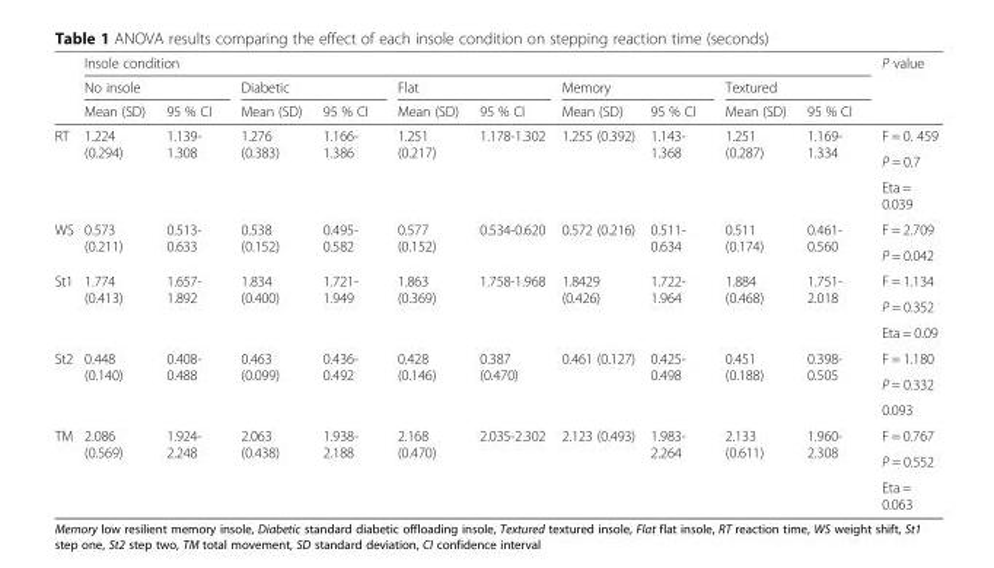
<table><thead><tr><td rowspan="3"></td><td colspan="10">Insole condition</td><td rowspan="3">P value</td></tr><tr><td colspan="2">No insole</td><td colspan="2">Diabetic</td><td colspan="2">Flat</td><td colspan="2">Memory</td><td colspan="2">Textured</td></tr><tr><td>Mean (SD)</td><td>95 % CI</td><td>Mean (SD)</td><td>95 % CI</td><td>Mean (SD)</td><td>95 % CI</td><td>Mean (SD)</td><td>95 % CI</td><td>Mean (SD)</td><td>95 % CI</td></tr></thead><tbody><tr><td rowspan="3">RT</td><td rowspan="3">1.224 (0.294)</td><td rowspan="3">1.139- 1.308</td><td rowspan="3">1.276 (0.383)</td><td rowspan="3">1.166- 1.386</td><td rowspan="3">1.251 (0.217)</td><td rowspan="3">1.178-1.302</td><td rowspan="3">1.255 (0.392)</td><td rowspan="3">1.143- 1.368</td><td rowspan="3">1.251 (0.287)</td><td rowspan="3">1.169- 1.334</td><td>F = 0. 459</td></tr><tr><td>P = 0.7</td></tr><tr><td>Eta = 0.039</td></tr><tr><td rowspan="2">WS</td><td rowspan="2">0.573 (0.211)</td><td rowspan="2">0.513- 0.633</td><td rowspan="2">0.538 (0.152)</td><td rowspan="2">0.495- 0.582</td><td rowspan="2">0.577 (0.152)</td><td rowspan="2">0.534-0.620</td><td rowspan="2">0.572 (0.216)</td><td rowspan="2">0.511- 0.634</td><td rowspan="2">0.511 (0.174)</td><td rowspan="2">0.461- 0.560</td><td>F = 2.709</td></tr><tr><td>P = 0.042</td></tr><tr><td rowspan="3">St1</td><td rowspan="3">1.774 (0.413)</td><td rowspan="3">1.657- 1.892</td><td rowspan="3">1.834 (0.400)</td><td rowspan="3">1.721- 1.949</td><td rowspan="3">1.863 (0.369)</td><td rowspan="3">1.758-1.968</td><td rowspan="3">1.8429 (0.426)</td><td rowspan="3">1.722- 1.964</td><td rowspan="3">1.884 (0.468)</td><td rowspan="3">1.751- 2.018</td><td>F = 1.134</td></tr><tr><td>P = 0.352</td></tr><tr><td>Eta = 0.09</td></tr><tr><td rowspan="3">St2</td><td rowspan="3">0.448 (0.140)</td><td rowspan="3">0.408- 0.488</td><td rowspan="3">0.463 (0.099)</td><td rowspan="3">0.436- 0.492</td><td rowspan="3">0.428 (0.146)</td><td rowspan="3">0.387 (0.470)</td><td rowspan="3">0.461 (0.127)</td><td rowspan="3">0.425- 0.498</td><td rowspan="3">0.451 (0.188)</td><td rowspan="3">0.398- 0.505</td><td>F = 1.180</td></tr><tr><td>P = 0.332</td></tr><tr><td>0.093</td></tr><tr><td rowspan="3">TM</td><td rowspan="3">2.086 (0.569)</td><td rowspan="3">1.924- 2.248</td><td rowspan="3">2.063 (0.438)</td><td rowspan="3">1.938- 2.188</td><td rowspan="3">2.168 (0.470)</td><td rowspan="3">2.035-2.302</td><td rowspan="3">2.123 (0.493)</td><td rowspan="3">1.983- 2.264</td><td rowspan="3">2.133 (0.611)</td><td rowspan="3">1.960- 2.308</td><td>F = 0.767</td></tr><tr><td>P = 0.552</td></tr><tr><td>Eta = 0.063</td></tr></tbody></table>